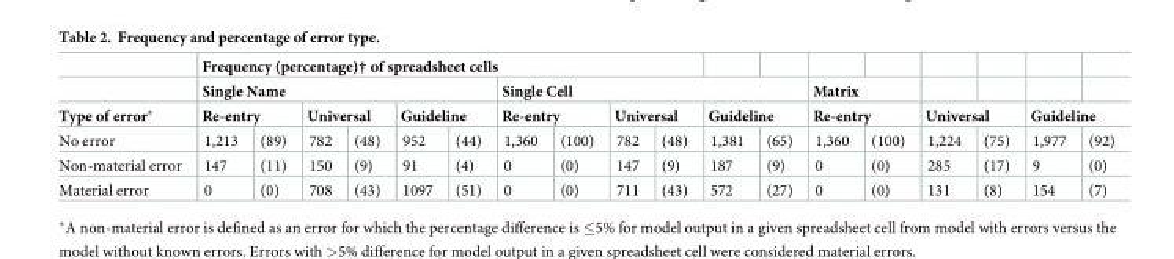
<table><thead><tr><td rowspan="4">Type of error* No error</td><td colspan="10">Frequency (percentage)† of spreadsheet cells</td><td></td><td></td><td></td><td></td><td rowspan="2"></td><td rowspan="2"></td><td rowspan="2"></td><td rowspan="2"></td></tr><tr><td colspan="6">Single Name</td><td colspan="6">Single Cell</td><td rowspan="2" colspan="2">Matrix Re-entry</td></tr><tr><td colspan="2">Re-entry</td><td colspan="2">Universal</td><td colspan="2">Guideline</td><td colspan="2">Re-entry</td><td colspan="2">Universal</td><td colspan="2">Guideline</td><td colspan="2">Universal</td><td colspan="2">Guideline</td></tr><tr><td>1,213</td><td>(89)</td><td>782</td><td>(48)</td><td>952</td><td>(44)</td><td>1,360</td><td>(100)</td><td>782</td><td>(48)</td><td>1,381</td><td>(65)</td><td>1,360</td><td>(100)</td><td>1,224</td><td>(75)</td><td>1,977</td><td>(92)</td></tr></thead><tbody><tr><td>Non-material error</td><td>147</td><td>(11)</td><td>150</td><td>(9)</td><td>91</td><td>(4)</td><td>0</td><td>(0)</td><td>147</td><td>(9)</td><td>187</td><td>(9)</td><td>0</td><td>(0)</td><td>285</td><td>(17)</td><td>9</td><td>(0)</td></tr><tr><td>Material error</td><td>0</td><td>(0)</td><td>708</td><td>(43)</td><td>1097</td><td>(51)</td><td>0</td><td>(0)</td><td>711</td><td>(43)</td><td>572</td><td>(27)</td><td>0</td><td>(0)</td><td>131</td><td>(8)</td><td>154</td><td>(7)</td></tr></tbody></table>